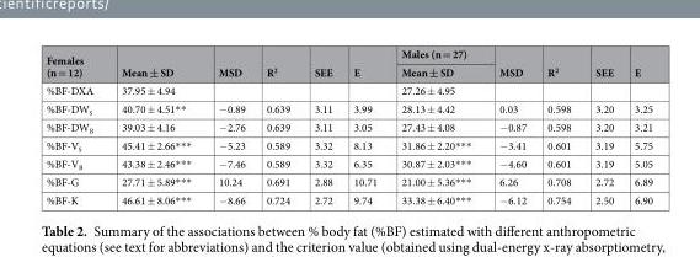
<table><thead><tr><td rowspan="2">Females (n = 12)</td><td rowspan="2">Mean ± SD</td><td rowspan="2">MSD</td><td rowspan="2">R<sup>2</sup></td><td rowspan="2">SEE</td><td rowspan="2">E</td><td rowspan="2">Males (n = 27) Mean ± SD</td><td rowspan="2">MSD</td><td rowspan="2">R<sup>2</sup></td><td rowspan="2">SEE</td><td rowspan="2">E</td></tr><tr></tr></thead><tbody><tr><td>%BF-DXA</td><td>37.95 ± 4.94</td><td></td><td></td><td></td><td></td><td>27.26 ± 4.95</td><td></td><td></td><td></td><td></td></tr><tr><td>%BF-DW<sub>S</sub></td><td>40.70 ± 4.51**</td><td>−0.89</td><td>0.639</td><td>3.11</td><td>3.99</td><td>28.13 ± 4.42</td><td>0.03</td><td>0.598</td><td>3.20</td><td>3.25</td></tr><tr><td>%BF-DW<sub>B</sub></td><td>39.03 ± 4.16</td><td>−2.76</td><td>0.639</td><td>3.11</td><td>3.05</td><td>27.43 ± 4.08</td><td>−0.87</td><td>0.598</td><td>3.20</td><td>3.21</td></tr><tr><td>%BF-V<sub>S</sub></td><td>45.41 ± 2.66***</td><td>−5.23</td><td>0.589</td><td>3.32</td><td>8.13</td><td>31.86 ± 2.20***</td><td>−3.41</td><td>0.601</td><td>3.19</td><td>5.75</td></tr><tr><td>%BF-V<sub>B</sub></td><td>43.38 ± 2.46***</td><td>−7.46</td><td>0.589</td><td>3.32</td><td>6.35</td><td>30.87 ± 2.03***</td><td>−4.60</td><td>0.601</td><td>3.19</td><td>5.05</td></tr><tr><td>%BF-G</td><td>27.71 ± 5.89***</td><td>10.24</td><td>0.691</td><td>2.88</td><td>10.71</td><td>21.00 ± 5.36***</td><td>6.26</td><td>0.708</td><td>2.72</td><td>6.89</td></tr><tr><td>%BF-K</td><td>46.61 ± 8.06***</td><td>−8.66</td><td>0.724</td><td>2.72</td><td>9.74</td><td>33.38 ± 6.40***</td><td>−6.12</td><td>0.754</td><td>2.50</td><td>6.90</td></tr></tbody></table>